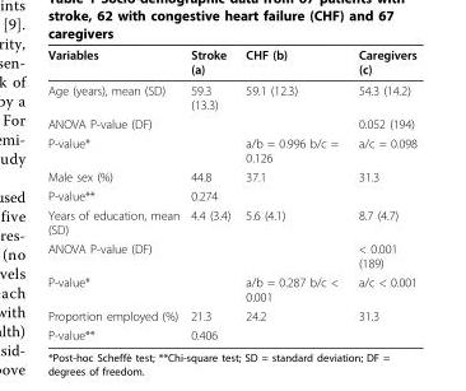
<table><thead><tr><td>Variables</td><td>Stroke (a)</td><td>CHF (b)</td><td>Caregivers (c)</td></tr></thead><tbody><tr><td>Age (years), mean (SD)</td><td>59.3 (13.3)</td><td>59.1 (12.3)</td><td>54.3 (14.2)</td></tr><tr><td>ANOVA P-value (DF)</td><td></td><td></td><td>0.052 (194)</td></tr><tr><td>P-value*</td><td></td><td>a/b = 0.996 b/c = 0.126</td><td>a/c = 0.098</td></tr><tr><td>Male sex (%)</td><td>44.8</td><td>37.1</td><td>31.3</td></tr><tr><td>P-value**</td><td>0.274</td><td></td><td></td></tr><tr><td>Years of education, mean (SD)</td><td>4.4 (3.4)</td><td>5.6 (4.1)</td><td>8.7 (4.7)</td></tr><tr><td>ANOVA P-value (DF)</td><td></td><td></td><td>&lt; 0.001 (189)</td></tr><tr><td>P-value*</td><td></td><td>a/b = 0.287 b/c &lt; 0.001</td><td>a/c &lt; 0.001</td></tr><tr><td>Proportion employed (%)</td><td>21.3</td><td>24.2</td><td>31.3</td></tr><tr><td>P-value**</td><td>0.406</td><td></td><td></td></tr></tbody></table>